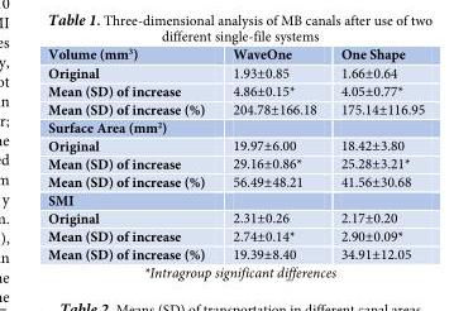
<table><thead><tr><td>Volume (mm<sup>3</sup>)</td><td>WaveOne</td><td>One Shape</td></tr></thead><tbody><tr><td>Original</td><td>1.93±0.85</td><td>1.66±0.64</td></tr><tr><td>Mean (SD) of increase</td><td>4.86±0.15*</td><td>4.05±0.77*</td></tr><tr><td>Mean (SD) of increase (%)</td><td>204.78±166.18</td><td>175.14±116.95</td></tr><tr><td colspan="3">Surface Area (mm<sup>2</sup>)</td></tr><tr><td>Original</td><td>19.97±6.00</td><td>18.42±3.80</td></tr><tr><td>Mean (SD) of increase</td><td>29.16±0.86*</td><td>25.28±3.21*</td></tr><tr><td>Mean (SD) of increase (%)</td><td>56.49±48.21</td><td>41.56±30.68</td></tr><tr><td colspan="3">SMI</td></tr><tr><td>Original</td><td>2.31±0.26</td><td>2.17±0.20</td></tr><tr><td>Mean (SD) of increase</td><td>2.74±0.14*</td><td>2.90±0.09*</td></tr><tr><td>Mean (SD) of increase (%)</td><td>19.39±8.40</td><td>34.91±12.05</td></tr></tbody></table>